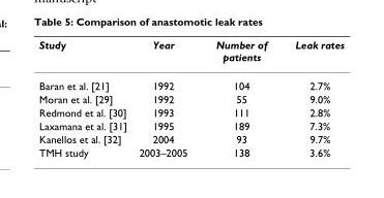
<table><thead><tr><td>Study</td><td>Year</td><td>Number of patients</td><td>Leak rates</td></tr></thead><tbody><tr><td>Baran et al. [21]</td><td>1992</td><td>104</td><td>2.7%</td></tr><tr><td>Moran et al. [29]</td><td>1992</td><td>55</td><td>9.0%</td></tr><tr><td>Redmond et al. [30]</td><td>1993</td><td>111</td><td>2.8%</td></tr><tr><td>Laxamana et al. [31]</td><td>1995</td><td>189</td><td>7.3%</td></tr><tr><td>Kanellos et al. [32]</td><td>2004</td><td>93</td><td>9.7%</td></tr><tr><td>TMH study</td><td>2003–2005</td><td>138</td><td>3.6%</td></tr></tbody></table>